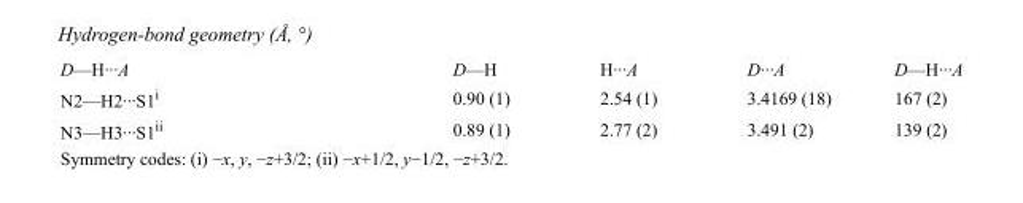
<table><tbody><tr><td>D—H···A</td><td>D—H</td><td>H···A</td><td>D···A</td><td>D—H···A</td></tr><tr><td>N2—H2···S1<sup>i</sup></td><td>0.90 (1)</td><td>2.54 (1)</td><td>3.4169 (18)</td><td>167 (2)</td></tr><tr><td>N3—H3···S1<sup>ii</sup></td><td>0.89 (1)</td><td>2.77 (2)</td><td>3.491 (2)</td><td>139 (2)</td></tr></tbody></table>